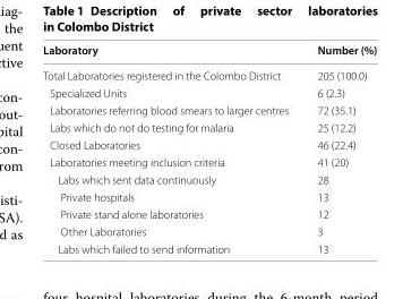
<table><thead><tr><td>Laboratory</td><td>Number (%)</td></tr></thead><tbody><tr><td>Total Laboratories registered in the Colombo District</td><td>205 (100.0)</td></tr><tr><td>Specialized Units</td><td>6 (2.3)</td></tr><tr><td>Laboratories referring blood smears to larger centres</td><td>72 (35.1)</td></tr><tr><td>Labs which do not do testing for malaria</td><td>25 (12.2)</td></tr><tr><td>Closed Laboratories</td><td>46 (22.4)</td></tr><tr><td>Laboratories meeting inclusion criteria</td><td>41 (20)</td></tr><tr><td>Labs which sent data continuously</td><td>28</td></tr><tr><td>Private hospitals</td><td>13</td></tr><tr><td>Private stand alone laboratories</td><td>12</td></tr><tr><td>Other Laboratories</td><td>3</td></tr><tr><td>Labs which failed to send information</td><td>13</td></tr></tbody></table>